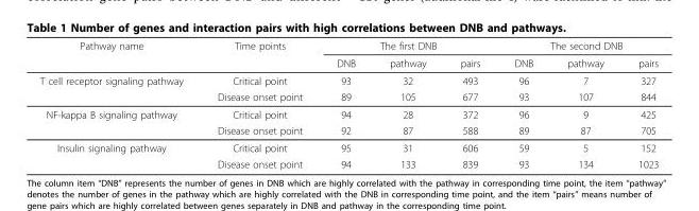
<table><thead><tr><td rowspan="2">Pathway name</td><td rowspan="2">Time points</td><td colspan="3">The first DNB</td><td colspan="3">The second DNB</td></tr><tr><td>DNB</td><td>pathway</td><td>pairs</td><td>DNB</td><td>pathway</td><td>pairs</td></tr></thead><tbody><tr><td rowspan="2">T cell receptor signaling pathway</td><td>Critical point</td><td>93</td><td>32</td><td>493</td><td>96</td><td>7</td><td>327</td></tr><tr><td>Disease onset point</td><td>89</td><td>105</td><td>677</td><td>93</td><td>107</td><td>844</td></tr><tr><td rowspan="2">NF-kappa B signaling pathway</td><td>Critical point</td><td>94</td><td>28</td><td>372</td><td>96</td><td>9</td><td>425</td></tr><tr><td>Disease onset point</td><td>92</td><td>87</td><td>588</td><td>89</td><td>87</td><td>705</td></tr><tr><td rowspan="2">Insulin signaling pathway</td><td>Critical point</td><td>95</td><td>31</td><td>606</td><td>59</td><td>5</td><td>152</td></tr><tr><td>Disease onset point</td><td>94</td><td>133</td><td>839</td><td>93</td><td>134</td><td>1023</td></tr></tbody></table>